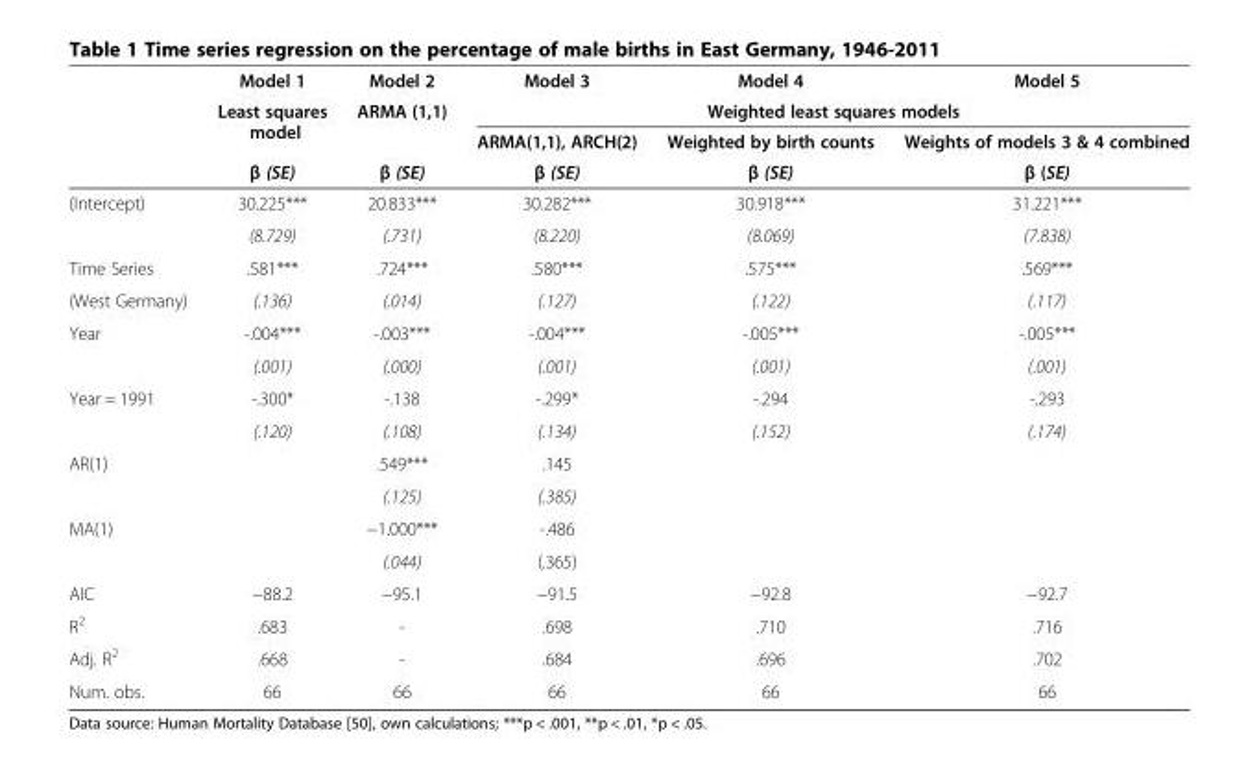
<table><thead><tr><td rowspan="4"></td><td rowspan="4">Model 1 Least squares model β (SE)</td><td rowspan="4">Model 2 ARMA (1,1) β (SE)</td><td>Model 3</td><td>Model 4</td><td>Model 5</td></tr><tr><td colspan="3">Weighted least squares models</td></tr><tr><td rowspan="2">ARMA(1,1), ARCH(2) β (SE)</td><td rowspan="2">Weighted by birth counts β (SE)</td><td rowspan="2">Weights of models 3 &amp; 4 combined β (SE)</td></tr><tr></tr></thead><tbody><tr><td rowspan="2">(Intercept)</td><td>30.225***</td><td>20.833***</td><td>30.282***</td><td>30.918***</td><td>31.221***</td></tr><tr><td>(8.729)</td><td>(.731)</td><td>(8.220)</td><td>(8.069)</td><td>(7.838)</td></tr><tr><td>Time Series</td><td>.581***</td><td>.724***</td><td>.580***</td><td>.575***</td><td>.569***</td></tr><tr><td>(West Germany)</td><td>(.136)</td><td>(.014)</td><td>(.127)</td><td>(.122)</td><td>(.117)</td></tr><tr><td rowspan="2">Year</td><td>-.004***</td><td>-.003***</td><td>-.004***</td><td>-.005***</td><td>-.005***</td></tr><tr><td>(.001)</td><td>(.000)</td><td>(.001)</td><td>(.001)</td><td>(.001)</td></tr><tr><td rowspan="2">Year = 1991</td><td>-.300*</td><td>-.138</td><td>-.299*</td><td>-.294</td><td>-.293</td></tr><tr><td>(.120)</td><td>(.108)</td><td>(.134)</td><td>(.152)</td><td>(.174)</td></tr><tr><td rowspan="2">AR(1)</td><td></td><td>.549***</td><td>.145</td><td></td><td></td></tr><tr><td></td><td>(.125)</td><td>(.385)</td><td></td><td></td></tr><tr><td rowspan="2">MA(1)</td><td></td><td>−1.000***</td><td>-.486</td><td></td><td></td></tr><tr><td></td><td>(.044)</td><td>(.365)</td><td></td><td></td></tr><tr><td>AIC</td><td>−88.2</td><td>−95.1</td><td>−91.5</td><td>−92.8</td><td>−92.7</td></tr><tr><td>R<sup>2</sup></td><td>.683</td><td>-</td><td>.698</td><td>.710</td><td>.716</td></tr><tr><td>Adj. R<sup>2</sup></td><td>.668</td><td>-</td><td>.684</td><td>.696</td><td>.702</td></tr><tr><td>Num. obs.</td><td>66</td><td>66</td><td>66</td><td>66</td><td>66</td></tr></tbody></table>